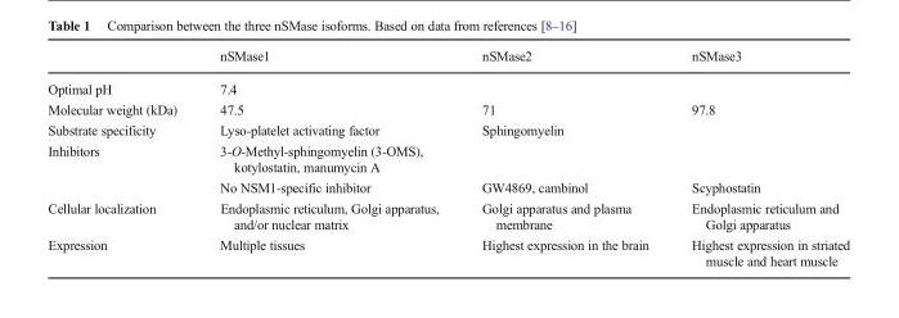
<table><thead><tr><td></td><td>nSMase1</td><td>nSMase2</td><td>nSMase3</td></tr></thead><tbody><tr><td>Optimal pH</td><td colspan="3">7.4</td></tr><tr><td>Molecular weight (kDa)</td><td>47.5</td><td>71</td><td>97.8</td></tr><tr><td>Substrate specificity</td><td>Lyso-platelet activating factor</td><td colspan="2">Sphingomyelin</td></tr><tr><td rowspan="2">Inhibitors</td><td colspan="3">3-O-Methyl-sphingomyelin (3-OMS), kotylostatin, manumycin A</td></tr><tr><td>No NSM1-specific inhibitor</td><td>GW4869, cambinol</td><td>Scyphostatin</td></tr><tr><td>Cellular localization</td><td>Endoplasmic reticulum, Golgi apparatus, and/or nuclear matrix</td><td>Golgi apparatus and plasma membrane</td><td>Endoplasmic reticulum and Golgi apparatus</td></tr><tr><td>Expression</td><td>Multiple tissues</td><td>Highest expression in the brain</td><td>Highest expression in striated muscle and heart muscle</td></tr></tbody></table>